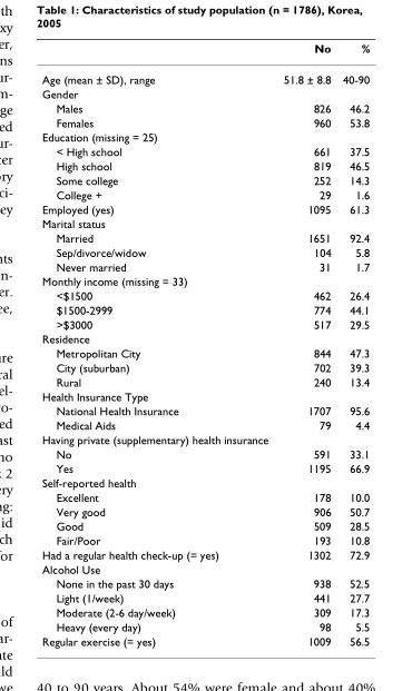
<table><thead><tr><td></td><td>No</td><td>%</td></tr></thead><tbody><tr><td>Age (mean ± SD), range</td><td>51.8 ± 8.8</td><td>40-90</td></tr><tr><td colspan="3">Gender</td></tr><tr><td>Males</td><td>826</td><td>46.2</td></tr><tr><td>Females</td><td>960</td><td>53.8</td></tr><tr><td colspan="3">Education (missing = 25)</td></tr><tr><td>&lt; High school</td><td>661</td><td>37.5</td></tr><tr><td>High school</td><td>819</td><td>46.5</td></tr><tr><td>Some college</td><td>252</td><td>14.3</td></tr><tr><td>College +</td><td>29</td><td>1.6</td></tr><tr><td>Employed (yes)</td><td>1095</td><td>61.3</td></tr><tr><td colspan="3">Marital status</td></tr><tr><td>Married</td><td>1651</td><td>92.4</td></tr><tr><td>Sep/divorce/widow</td><td>104</td><td>5.8</td></tr><tr><td>Never married</td><td>31</td><td>1.7</td></tr><tr><td colspan="3">Monthly income (missing = 33)</td></tr><tr><td>&lt;$1500</td><td>462</td><td>26.4</td></tr><tr><td>$1500-2999</td><td>774</td><td>44.1</td></tr><tr><td>&gt;$3000</td><td>517</td><td>29.5</td></tr><tr><td colspan="3">Residence</td></tr><tr><td>Metropolitan City</td><td>844</td><td>47.3</td></tr><tr><td>City (suburban)</td><td>702</td><td>39.3</td></tr><tr><td>Rural</td><td>240</td><td>13.4</td></tr><tr><td colspan="3">Health Insurance Type</td></tr><tr><td>National Health Insurance</td><td>1707</td><td>95.6</td></tr><tr><td>Medical Aids</td><td>79</td><td>4.4</td></tr><tr><td colspan="3">Having private (supplementary) health insurance</td></tr><tr><td>No</td><td>591</td><td>33.1</td></tr><tr><td>Yes</td><td>1195</td><td>66.9</td></tr><tr><td colspan="3">Self-reported health</td></tr><tr><td>Excellent</td><td>178</td><td>10.0</td></tr><tr><td>Very good</td><td>906</td><td>50.7</td></tr><tr><td>Good</td><td>509</td><td>28.5</td></tr><tr><td>Fair/Poor</td><td>193</td><td>10.8</td></tr><tr><td>Had a regular health check-up (= yes)</td><td>1302</td><td>72.9</td></tr><tr><td colspan="3">Alcohol Use</td></tr><tr><td>None in the past 30 days</td><td>938</td><td>52.5</td></tr><tr><td>Light (1/week)</td><td>441</td><td>27.7</td></tr><tr><td>Moderate (2-6 day/week)</td><td>309</td><td>17.3</td></tr><tr><td>Heavy (every day)</td><td>98</td><td>5.5</td></tr><tr><td>Regular exercise (= yes)</td><td>1009</td><td>56.5</td></tr></tbody></table>